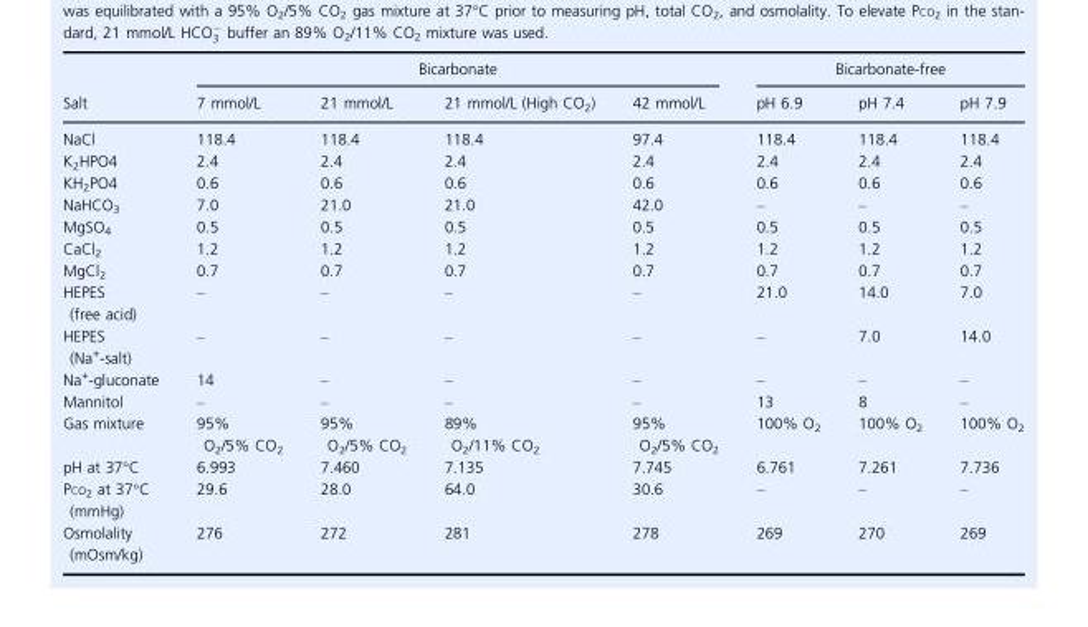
<table><thead><tr><td rowspan="2">Salt</td><td colspan="4">Bicarbonate</td><td colspan="3">Bicarbonate-free</td></tr><tr><td>7 mmol/L</td><td>21 mmol/L</td><td>21 mmol/L (High CO<sub>2</sub>)</td><td>42 mmol/L</td><td>pH 6.9</td><td>pH 7.4</td><td>pH 7.9</td></tr></thead><tbody><tr><td>NaCl</td><td>118.4</td><td>118.4</td><td>118.4</td><td>97.4</td><td>118.4</td><td>118.4</td><td>118.4</td></tr><tr><td>K<sub>2</sub>HPO4</td><td>2.4</td><td>2.4</td><td>2.4</td><td>2.4</td><td>2.4</td><td>2.4</td><td>2.4</td></tr><tr><td>KH<sub>2</sub>PO4</td><td>0.6</td><td>0.6</td><td>0.6</td><td>0.6</td><td>0.6</td><td>0.6</td><td>0.6</td></tr><tr><td>NaHCO<sub>3</sub></td><td>7.0</td><td>21.0</td><td>21.0</td><td>42.0</td><td>–</td><td>–</td><td>–</td></tr><tr><td>MgSO<sub>4</sub></td><td>0.5</td><td>0.5</td><td>0.5</td><td>0.5</td><td>0.5</td><td>0.5</td><td>0.5</td></tr><tr><td>CaCl<sub>2</sub></td><td>1.2</td><td>1.2</td><td>1.2</td><td>1.2</td><td>1.2</td><td>1.2</td><td>1.2</td></tr><tr><td>MgCl<sub>2</sub></td><td>0.7</td><td>0.7</td><td>0.7</td><td>0.7</td><td>0.7</td><td>0.7</td><td>0.7</td></tr><tr><td>HEPES (free acid)</td><td>–</td><td>–</td><td>–</td><td>–</td><td>21.0</td><td>14.0</td><td>7.0</td></tr><tr><td>HEPES (Na<sup>+</sup>-salt)</td><td>–</td><td>–</td><td>–</td><td>–</td><td>–</td><td>7.0</td><td>14.0</td></tr><tr><td>Na<sup>+</sup>-gluconate</td><td>14</td><td>–</td><td>–</td><td>–</td><td>–</td><td>–</td><td>–</td></tr><tr><td>Mannitol</td><td>–</td><td>–</td><td>–</td><td>–</td><td>13</td><td>8</td><td>–</td></tr><tr><td>Gas mixture</td><td>95% O<sub>2</sub>/5% CO<sub>2</sub></td><td>95% O<sub>2</sub>/5% CO<sub>2</sub></td><td>89% O<sub>2</sub>/11% CO<sub>2</sub></td><td>95% O<sub>2</sub>/5% CO<sub>2</sub></td><td>100% O<sub>2</sub></td><td>100% O<sub>2</sub></td><td>100% O<sub>2</sub></td></tr><tr><td>pH at 37°C</td><td>6.993</td><td>7.460</td><td>7.135</td><td>7.745</td><td>6.761</td><td>7.261</td><td>7.736</td></tr><tr><td>PCO<sub>2</sub> at 37°C (mmHg)</td><td>29.6</td><td>28.0</td><td>64.0</td><td>30.6</td><td>–</td><td>–</td><td>–</td></tr><tr><td>Osmolality (mOsm/kg)</td><td>276</td><td>272</td><td>281</td><td>278</td><td>269</td><td>270</td><td>269</td></tr></tbody></table>